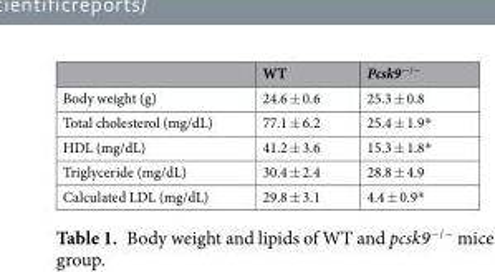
<table><thead><tr><td></td><td>WT</td><td>Pcsk9<sup>−/−</sup></td></tr></thead><tbody><tr><td>Body weight (g)</td><td>24.6 ± 0.6</td><td>25.3 ± 0.8</td></tr><tr><td>Total cholesterol (mg/dL)</td><td>77.1 ± 6.2</td><td>25.4 ± 1.9*</td></tr><tr><td>HDL (mg/dL)</td><td>41.2 ± 3.6</td><td>15.3 ± 1.8*</td></tr><tr><td>Triglyceride (mg/dL)</td><td>30.4 ± 2.4</td><td>28.8 ± 4.9</td></tr><tr><td>Calculated LDL (mg/dL)</td><td>29.8 ± 3.1</td><td>4.4 ± 0.9*</td></tr></tbody></table>